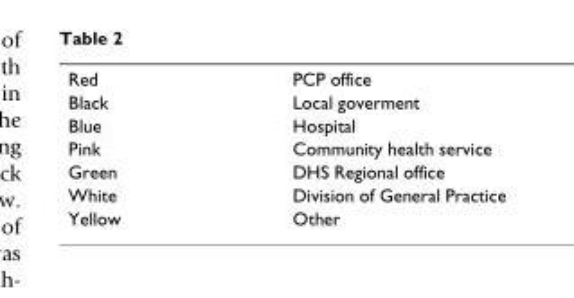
<table><tbody><tr><td>Red</td><td>PCP office</td></tr><tr><td>Black</td><td>Local goverment</td></tr><tr><td>Blue</td><td>Hospital</td></tr><tr><td>Pink</td><td>Community health service</td></tr><tr><td>Green</td><td>DHS Regional office</td></tr><tr><td>White</td><td>Division of General Practice</td></tr><tr><td>Yellow</td><td>Other</td></tr></tbody></table>